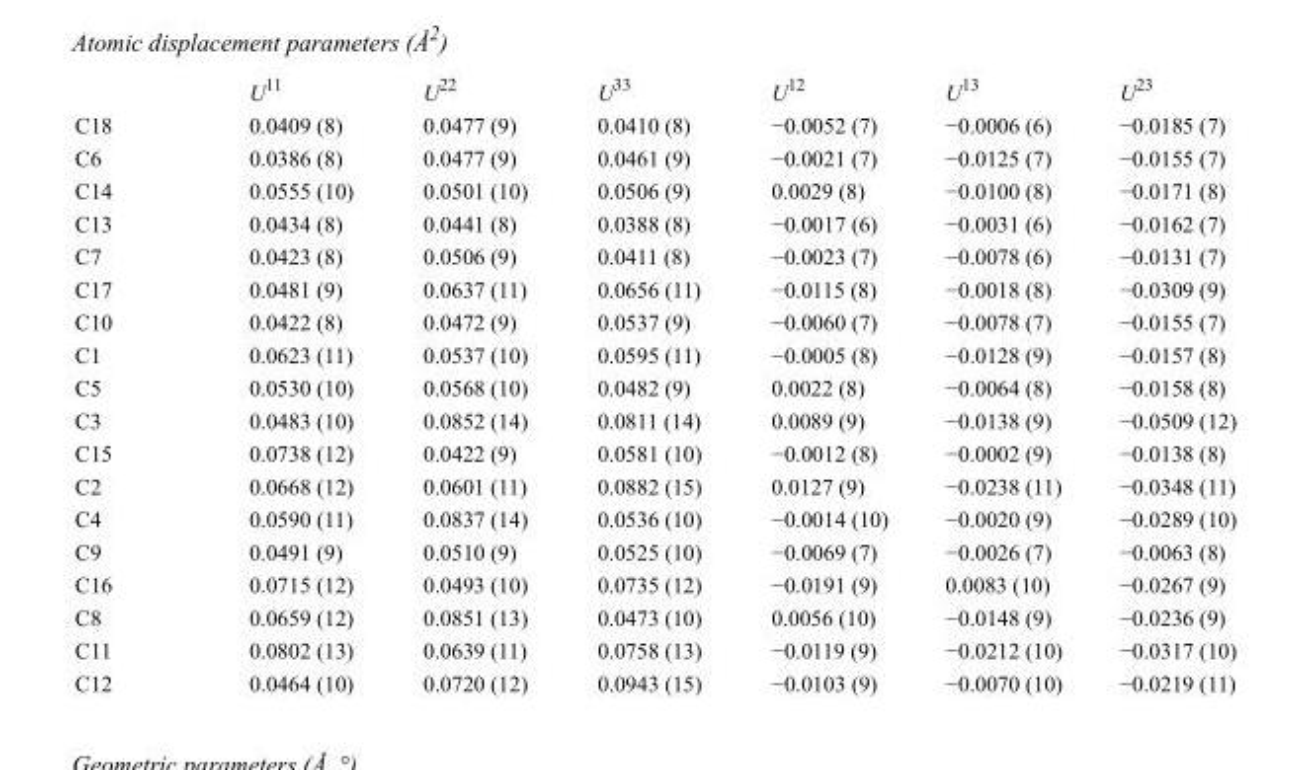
<table><thead><tr><td></td><td>U<sup>11</sup></td><td>U<sup>22</sup></td><td>U<sup>33</sup></td><td>U<sup>12</sup></td><td>U<sup>13</sup></td><td>U<sup>23</sup></td></tr></thead><tbody><tr><td>C18</td><td>0.0409 (8)</td><td>0.0477 (9)</td><td>0.0410 (8)</td><td>−0.0052 (7)</td><td>−0.0006 (6)</td><td>−0.0185 (7)</td></tr><tr><td>C6</td><td>0.0386 (8)</td><td>0.0477 (9)</td><td>0.0461 (9)</td><td>−0.0021 (7)</td><td>−0.0125 (7)</td><td>−0.0155 (7)</td></tr><tr><td>C14</td><td>0.0555 (10)</td><td>0.0501 (10)</td><td>0.0506 (9)</td><td>0.0029 (8)</td><td>−0.0100 (8)</td><td>−0.0171 (8)</td></tr><tr><td>C13</td><td>0.0434 (8)</td><td>0.0441 (8)</td><td>0.0388 (8)</td><td>−0.0017 (6)</td><td>−0.0031 (6)</td><td>−0.0162 (7)</td></tr><tr><td>C7</td><td>0.0423 (8)</td><td>0.0506 (9)</td><td>0.0411 (8)</td><td>−0.0023 (7)</td><td>−0.0078 (6)</td><td>−0.0131 (7)</td></tr><tr><td>C17</td><td>0.0481 (9)</td><td>0.0637 (11)</td><td>0.0656 (11)</td><td>−0.0115 (8)</td><td>−0.0018 (8)</td><td>−0.0309 (9)</td></tr><tr><td>C10</td><td>0.0422 (8)</td><td>0.0472 (9)</td><td>0.0537 (9)</td><td>−0.0060 (7)</td><td>−0.0078 (7)</td><td>−0.0155 (7)</td></tr><tr><td>C1</td><td>0.0623 (11)</td><td>0.0537 (10)</td><td>0.0595 (11)</td><td>−0.0005 (8)</td><td>−0.0128 (9)</td><td>−0.0157 (8)</td></tr><tr><td>C5</td><td>0.0530 (10)</td><td>0.0568 (10)</td><td>0.0482 (9)</td><td>0.0022 (8)</td><td>−0.0064 (8)</td><td>−0.0158 (8)</td></tr><tr><td>C3</td><td>0.0483 (10)</td><td>0.0852 (14)</td><td>0.0811 (14)</td><td>0.0089 (9)</td><td>−0.0138 (9)</td><td>−0.0509 (12)</td></tr><tr><td>C15</td><td>0.0738 (12)</td><td>0.0422 (9)</td><td>0.0581 (10)</td><td>−0.0012 (8)</td><td>−0.0002 (9)</td><td>−0.0138 (8)</td></tr><tr><td>C2</td><td>0.0668 (12)</td><td>0.0601 (11)</td><td>0.0882 (15)</td><td>0.0127 (9)</td><td>−0.0238 (11)</td><td>−0.0348 (11)</td></tr><tr><td>C4</td><td>0.0590 (11)</td><td>0.0837 (14)</td><td>0.0536 (10)</td><td>−0.0014 (10)</td><td>−0.0020 (9)</td><td>−0.0289 (10)</td></tr><tr><td>C9</td><td>0.0491 (9)</td><td>0.0510 (9)</td><td>0.0525 (10)</td><td>−0.0069 (7)</td><td>−0.0026 (7)</td><td>−0.0063 (8)</td></tr><tr><td>C16</td><td>0.0715 (12)</td><td>0.0493 (10)</td><td>0.0735 (12)</td><td>−0.0191 (9)</td><td>0.0083 (10)</td><td>−0.0267 (9)</td></tr><tr><td>C8</td><td>0.0659 (12)</td><td>0.0851 (13)</td><td>0.0473 (10)</td><td>0.0056 (10)</td><td>−0.0148 (9)</td><td>−0.0236 (9)</td></tr><tr><td>C11</td><td>0.0802 (13)</td><td>0.0639 (11)</td><td>0.0758 (13)</td><td>−0.0119 (9)</td><td>−0.0212 (10)</td><td>−0.0317 (10)</td></tr><tr><td>C12</td><td>0.0464 (10)</td><td>0.0720 (12)</td><td>0.0943 (15)</td><td>−0.0103 (9)</td><td>−0.0070 (10)</td><td>−0.0219 (11)</td></tr></tbody></table>